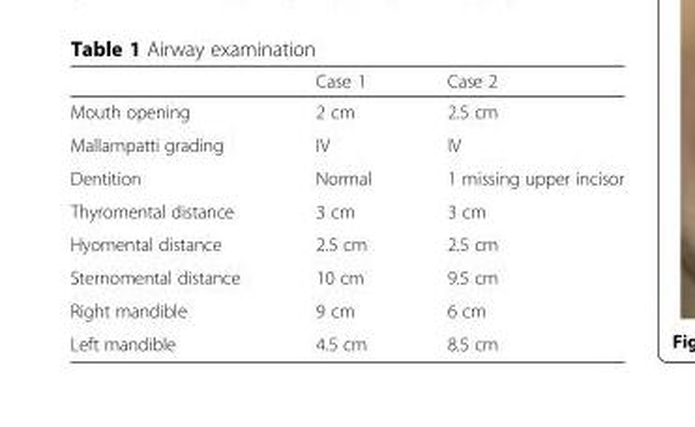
<table><thead><tr><td></td><td>Case 1</td><td>Case 2</td></tr></thead><tbody><tr><td>Mouth opening</td><td>2 cm</td><td>2.5 cm</td></tr><tr><td>Mallampatti grading</td><td>IV</td><td>IV</td></tr><tr><td>Dentition</td><td>Normal</td><td>1 missing upper incisor</td></tr><tr><td>Thyromental distance</td><td>3 cm</td><td>3 cm</td></tr><tr><td>Hyomental distance</td><td>2.5 cm</td><td>2.5 cm</td></tr><tr><td>Sternomental distance</td><td>10 cm</td><td>9.5 cm</td></tr><tr><td>Right mandible</td><td>9 cm</td><td>6 cm</td></tr><tr><td>Left mandible</td><td>4.5 cm</td><td>8.5 cm</td></tr></tbody></table>